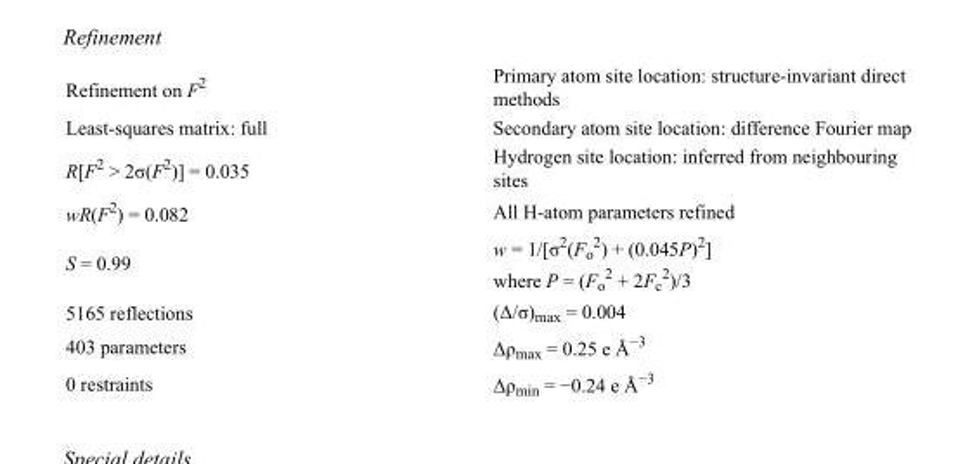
<table><tbody><tr><td>Refinement on F<sup>2</sup></td><td>Primary atom site location: structure-invariant direct methods</td></tr><tr><td>Least-squares matrix: full</td><td>Secondary atom site location: difference Fourier map</td></tr><tr><td>R[F<sup>2</sup> &gt; 2σ(F<sup>2</sup>)] = 0.035</td><td>Hydrogen site location: inferred from neighbouring sites</td></tr><tr><td>wR(F<sup>2</sup>) = 0.082</td><td>All H-atom parameters refined</td></tr><tr><td>S = 0.99</td><td>w = 1/[σ<sup>2</sup>(F<sub>o</sub> <sup>2</sup>) + (0.045P)<sup>2</sup>] where P = (F<sub>o</sub> <sup>2</sup> + 2F<sub>c</sub> <sup>2</sup>)/3</td></tr><tr><td>5165 reflections</td><td>(Δ/σ)<sub>max</sub> = 0.004</td></tr><tr><td>403 parameters</td><td>Δρ<sub>max</sub> = 0.25 e Å<sup>−3</sup></td></tr><tr><td>0 restraints</td><td>Δρ<sub>min</sub> = −0.24 e Å<sup>−3</sup></td></tr></tbody></table>